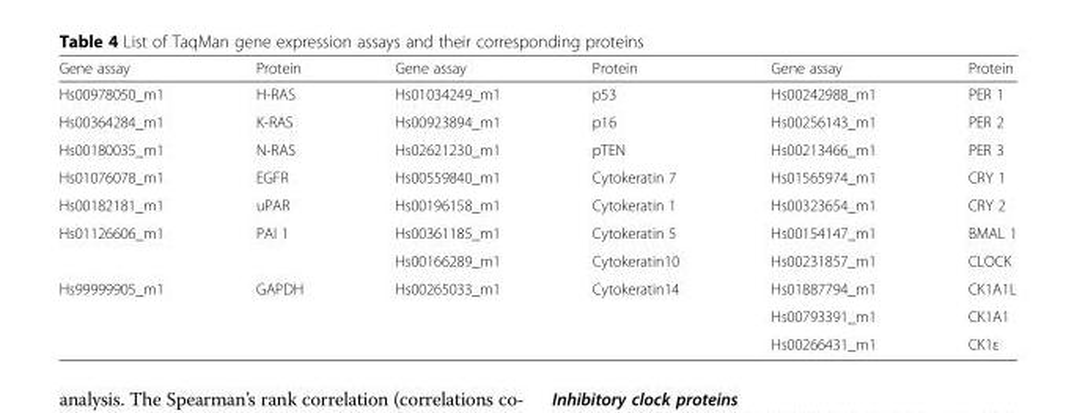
<table><thead><tr><td>Gene assay</td><td>Protein</td><td>Gene assay</td><td>Protein</td><td>Gene assay</td><td>Protein</td></tr></thead><tbody><tr><td>Hs00978050_m1</td><td>H-RAS</td><td>Hs01034249_m1</td><td>p53</td><td>Hs00242988_m1</td><td>PER 1</td></tr><tr><td>Hs00364284_m1</td><td>K-RAS</td><td>Hs00923894_m1</td><td>p16</td><td>Hs00256143_m1</td><td>PER 2</td></tr><tr><td>Hs00180035_m1</td><td>N-RAS</td><td>Hs02621230_m1</td><td>pTEN</td><td>Hs00213466_m1</td><td>PER 3</td></tr><tr><td>Hs01076078_m1</td><td>EGFR</td><td>Hs00559840_m1</td><td>Cytokeratin 7</td><td>Hs01565974_m1</td><td>CRY 1</td></tr><tr><td>Hs00182181_m1</td><td>uPAR</td><td>Hs00196158_m1</td><td>Cytokeratin 1</td><td>Hs00323654_m1</td><td>CRY 2</td></tr><tr><td rowspan="2">Hs01126606_m1</td><td>PAI 1</td><td>Hs00361185_m1</td><td>Cytokeratin 5</td><td>Hs00154147_m1</td><td>BMAL 1</td></tr><tr><td></td><td>Hs00166289_m1</td><td>Cytokeratin10</td><td>Hs00231857_m1</td><td>CLOCK</td></tr><tr><td rowspan="3">Hs99999905_m1</td><td>GAPDH</td><td>Hs00265033_m1</td><td>Cytokeratin14</td><td>Hs01887794_m1</td><td>CK1A1L</td></tr><tr><td></td><td></td><td></td><td>Hs00793391_m1</td><td>CK1A1</td></tr><tr><td></td><td></td><td></td><td>Hs00266431_m1</td><td>CK1ε</td></tr></tbody></table>